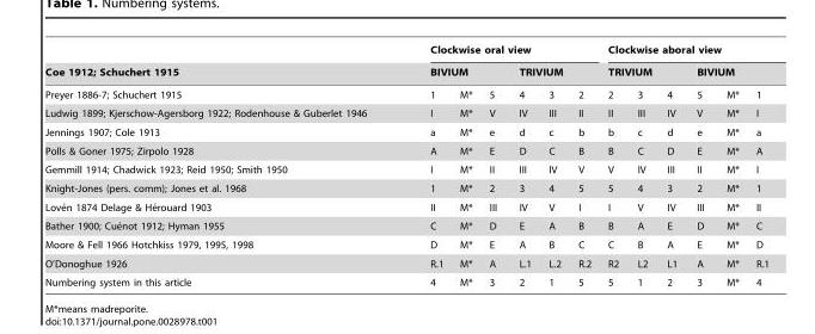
<table><thead><tr><td rowspan="3">Coe 1912; Schuchert 1915 Preyer 1886-7; Schuchert 1915</td><td colspan="6">Clockwise oral view</td><td colspan="6">Clockwise aboral view</td></tr><tr><td colspan="3">BIVIUM</td><td colspan="3">TRIVIUM</td><td colspan="3">TRIVIUM</td><td colspan="3">BIVIUM</td></tr><tr><td>1</td><td>M*</td><td>5</td><td>4</td><td>3</td><td>2</td><td>2</td><td>3</td><td>4</td><td>5</td><td>M*</td><td>1</td></tr></thead><tbody><tr><td>Ludwig 1899; Kjerschow-Agersborg 1922; Rodenhouse &amp; Guberlet 1946</td><td>I</td><td>M*</td><td>V</td><td>IV</td><td>III</td><td>II</td><td>II</td><td>III</td><td>IV</td><td>V</td><td>M*</td><td>I</td></tr><tr><td>Jennings 1907; Cole 1913</td><td>a</td><td>M*</td><td>e</td><td>d</td><td>c</td><td>b</td><td>b</td><td>c</td><td>d</td><td>e</td><td>M*</td><td>a</td></tr><tr><td>Polls &amp; Goner 1975; Zirpolo 1928</td><td>A</td><td>M*</td><td>E</td><td>D</td><td>C</td><td>B</td><td>B</td><td>C</td><td>D</td><td>E</td><td>M*</td><td>A</td></tr><tr><td>Gemmill 1914; Chadwick 1923; Reid 1950; Smith 1950</td><td>I</td><td>M*</td><td>II</td><td>III</td><td>IV</td><td>V</td><td>V</td><td>IV</td><td>III</td><td>II</td><td>M*</td><td>I</td></tr><tr><td>Knight-Jones (pers. comm); Jones et al. 1968</td><td>1</td><td>M*</td><td>2</td><td>3</td><td>4</td><td>5</td><td>5</td><td>4</td><td>3</td><td>2</td><td>M*</td><td>1</td></tr><tr><td>Love´n 1874 Delage &amp; He´rouard 1903</td><td>II</td><td>M*</td><td>III</td><td>IV</td><td>V</td><td>I</td><td>I</td><td>V</td><td>IV</td><td>III</td><td>M*</td><td>II</td></tr><tr><td>Bather 1900; Cue´not 1912; Hyman 1955</td><td>C</td><td>M*</td><td>D</td><td>E</td><td>A</td><td>B</td><td>B</td><td>A</td><td>E</td><td>D</td><td>M*</td><td>C</td></tr><tr><td>Moore &amp; Fell 1966 Hotchkiss 1979, 1995, 1998</td><td>D</td><td>M*</td><td>E</td><td>A</td><td>B</td><td>C</td><td>C</td><td>B</td><td>A</td><td>E</td><td>M*</td><td>D</td></tr><tr><td>O’Donoghue 1926</td><td>R.1</td><td>M*</td><td>A</td><td>L.1</td><td>L.2</td><td>R.2</td><td>R2</td><td>L2</td><td>L1</td><td>A</td><td>M*</td><td>R.1</td></tr><tr><td>Numbering system in this article</td><td>4</td><td>M*</td><td>3</td><td>2</td><td>1</td><td>5</td><td>5</td><td>1</td><td>2</td><td>3</td><td>M*</td><td>4</td></tr></tbody></table>